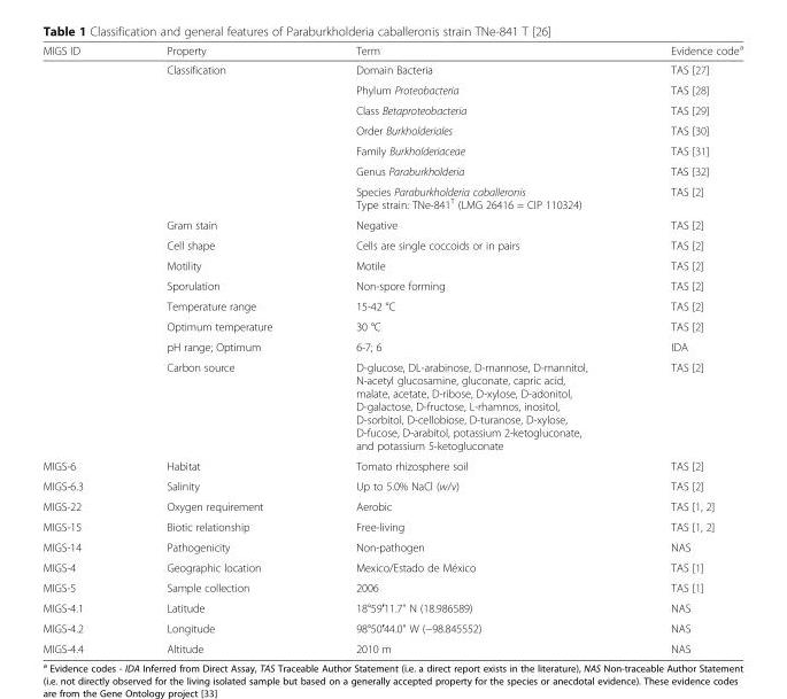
<table><thead><tr><td>MIGS ID</td><td>Property</td><td>Term</td><td>Evidence code<sup>a</sup></td></tr></thead><tbody><tr><td></td><td>Classification</td><td>Domain Bacteria</td><td>TAS [27]</td></tr><tr><td></td><td></td><td>Phylum Proteobacteria</td><td>TAS [28]</td></tr><tr><td></td><td></td><td>Class Betaproteobacteria</td><td>TAS [29]</td></tr><tr><td></td><td></td><td>Order Burkholderiales</td><td>TAS [30]</td></tr><tr><td></td><td></td><td>Family Burkholderiaceae</td><td>TAS [31]</td></tr><tr><td></td><td></td><td>Genus Paraburkholderia</td><td>TAS [32]</td></tr><tr><td></td><td></td><td>Species Paraburkholderia caballeronis Type strain: TNe-841<sup>T</sup> (LMG 26416 = CIP 110324)</td><td>TAS [2]</td></tr><tr><td></td><td>Gram stain</td><td>Negative</td><td>TAS [2]</td></tr><tr><td></td><td>Cell shape</td><td>Cells are single coccoids or in pairs</td><td>TAS [2]</td></tr><tr><td></td><td>Motility</td><td>Motile</td><td>TAS [2]</td></tr><tr><td></td><td>Sporulation</td><td>Non-spore forming</td><td>TAS [2]</td></tr><tr><td></td><td>Temperature range</td><td>15-42 °C</td><td>TAS [2]</td></tr><tr><td></td><td>Optimum temperature</td><td>30 °C</td><td>TAS [2]</td></tr><tr><td></td><td>pH range; Optimum</td><td>6-7; 6</td><td>IDA</td></tr><tr><td></td><td>Carbon source</td><td>D-glucose, DL-arabinose, D-mannose, D-mannitol, N-acetyl glucosamine, gluconate, capric acid, malate, acetate, D-ribose, D-xylose, D-adonitol, D-galactose, D-fructose, L-rhamnos, inositol, D-sorbitol, D-cellobiose, D-turanose, D-xylose, D-fucose, D-arabitol, potassium 2-ketogluconate, and potassium 5-ketogluconate</td><td>TAS [2]</td></tr><tr><td>MIGS-6</td><td>Habitat</td><td>Tomato rhizosphere soil</td><td>TAS [2]</td></tr><tr><td>MIGS-6.3</td><td>Salinity</td><td>Up to 5.0% NaCl (w/v)</td><td>TAS [2]</td></tr><tr><td>MIGS-22</td><td>Oxygen requirement</td><td>Aerobic</td><td>TAS [1, 2]</td></tr><tr><td>MIGS-15</td><td>Biotic relationship</td><td>Free-living</td><td>TAS [1, 2]</td></tr><tr><td>MIGS-14</td><td>Pathogenicity</td><td>Non-pathogen</td><td>NAS</td></tr><tr><td>MIGS-4</td><td>Geographic location</td><td>Mexico/Estado de México</td><td>TAS [1]</td></tr><tr><td>MIGS-5</td><td>Sample collection</td><td>2006</td><td>TAS [1]</td></tr><tr><td>MIGS-4.1</td><td>Latitude</td><td>18°59′11.7” N (18.986589)</td><td>NAS</td></tr><tr><td>MIGS-4.2</td><td>Longitude</td><td>98°50′44.0” W (−98.845552)</td><td>NAS</td></tr><tr><td>MIGS-4.4</td><td>Altitude</td><td>2010 m</td><td>NAS</td></tr></tbody></table>